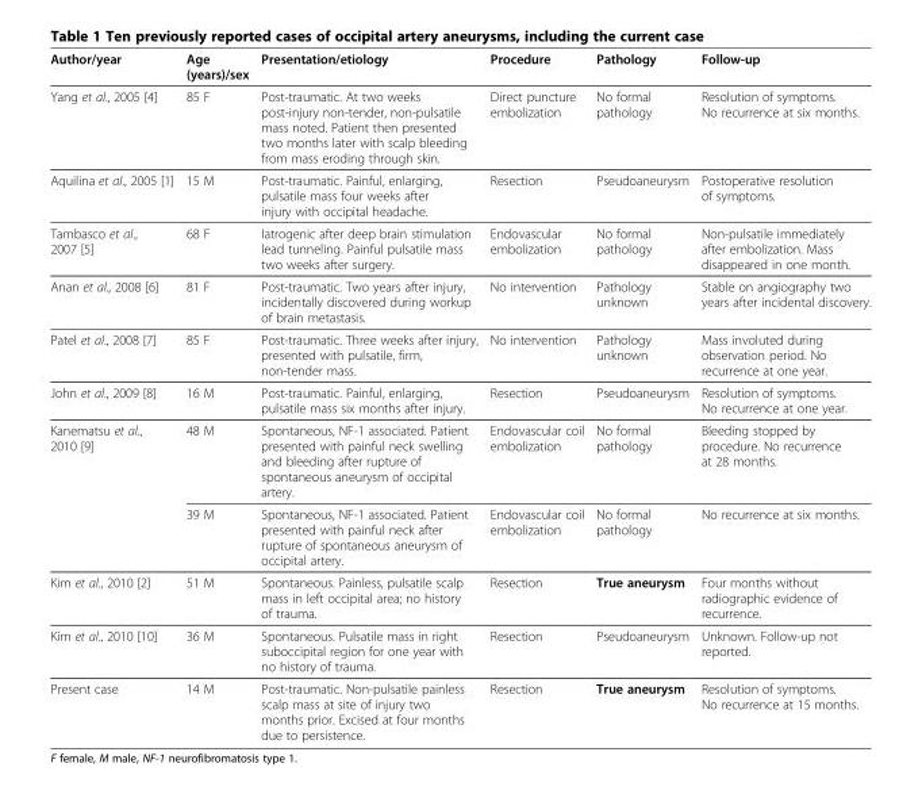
<table><thead><tr><td>Author/year</td><td>Age (years)/sex</td><td>Presentation/etiology</td><td>Procedure</td><td>Pathology</td><td>Follow-up</td></tr></thead><tbody><tr><td>Yang et al., 2005 [4]</td><td>85 F</td><td>Post-traumatic. At two weeks post-injury non-tender, non-pulsatile mass noted. Patient then presented two months later with scalp bleeding from mass eroding through skin.</td><td>Direct puncture embolization</td><td>No formal pathology</td><td>Resolution of symptoms. No recurrence at six months.</td></tr><tr><td>Aquilina et al., 2005 [1]</td><td>15 M</td><td>Post-traumatic. Painful, enlarging, pulsatile mass four weeks after injury with occipital headache.</td><td>Resection</td><td>Pseudoaneurysm</td><td>Postoperative resolution of symptoms.</td></tr><tr><td>Tambasco et al., 2007 [5]</td><td>68 F</td><td>Iatrogenic after deep brain stimulation lead tunneling. Painful pulsatile mass two weeks after surgery.</td><td>Endovascular embolization</td><td>No formal pathology</td><td>Non-pulsatile immediately after embolization. Mass disappeared in one month.</td></tr><tr><td>Anan et al., 2008 [6]</td><td>81 F</td><td>Post-traumatic. Two years after injury, incidentally discovered during workup of brain metastasis.</td><td>No intervention</td><td>Pathology unknown</td><td>Stable on angiography two years after incidental discovery.</td></tr><tr><td>Patel et al., 2008 [7]</td><td>85 F</td><td>Post-traumatic. Three weeks after injury, presented with pulsatile, firm, non-tender mass.</td><td>No intervention</td><td>Pathology unknown</td><td>Mass involuted during observation period. No recurrence at one year.</td></tr><tr><td>John et al., 2009 [8]</td><td>16 M</td><td>Post-traumatic. Painful, enlarging, pulsatile mass six months after injury.</td><td>Resection</td><td>Pseudoaneurysm</td><td>Resolution of symptoms. No recurrence at one year.</td></tr><tr><td rowspan="2">Kanematsu et al., 2010 [9]</td><td>48 M</td><td>Spontaneous, NF-1 associated. Patient presented with painful neck swelling and bleeding after rupture of spontaneous aneurysm of occipital artery.</td><td>Endovascular coil embolization</td><td>No formal pathology</td><td>Bleeding stopped by procedure. No recurrence at 28 months.</td></tr><tr><td>39 M</td><td>Spontaneous, NF-1 associated. Patient presented with painful neck after rupture of spontaneous aneurysm of occipital artery.</td><td>Endovascular coil embolization</td><td>No formal pathology</td><td>No recurrence at six months.</td></tr><tr><td>Kim et al., 2010 [2]</td><td>51 M</td><td>Spontaneous. Painless, pulsatile scalp mass in left occipital area; no history of trauma.</td><td>Resection</td><td>True aneurysm</td><td>Four months without radiographic evidence of recurrence.</td></tr><tr><td>Kim et al., 2010 [10]</td><td>36 M</td><td>Spontaneous. Pulsatile mass in right suboccipital region for one year with no history of trauma.</td><td>Resection</td><td>Pseudoaneurysm</td><td>Unknown. Follow-up not reported.</td></tr><tr><td>Present case</td><td>14 M</td><td>Post-traumatic. Non-pulsatile painless scalp mass at site of injury two months prior. Excised at four months due to persistence.</td><td>Resection</td><td>True aneurysm</td><td>Resolution of symptoms. No recurrence at 15 months.</td></tr></tbody></table>